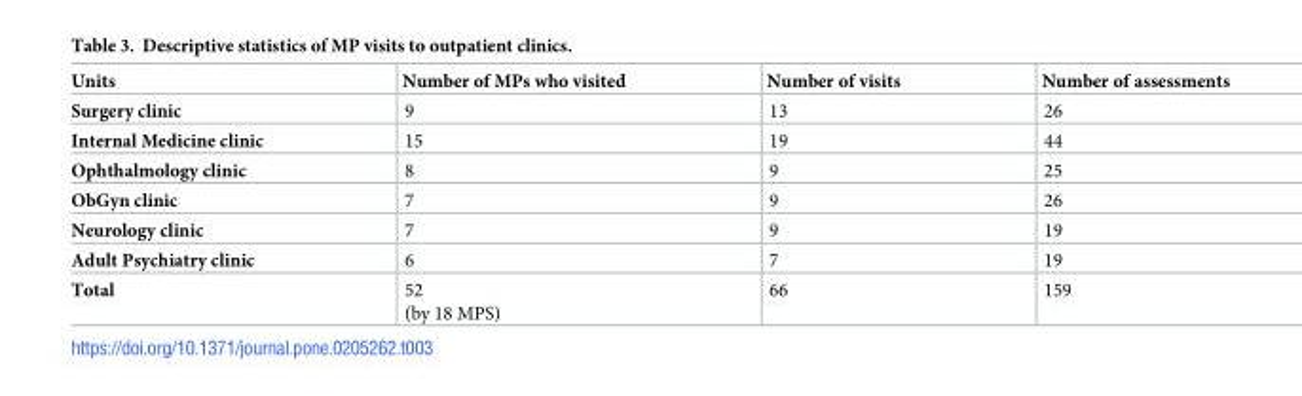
<table><thead><tr><td>Units</td><td>Number of MPs who visited</td><td>Number of visits</td><td>Number of assessments</td></tr></thead><tbody><tr><td>Surgery clinic</td><td>9</td><td>13</td><td>26</td></tr><tr><td>Internal Medicine clinic</td><td>15</td><td>19</td><td>44</td></tr><tr><td>Ophthalmology clinic</td><td>8</td><td>9</td><td>25</td></tr><tr><td>ObGyn clinic</td><td>7</td><td>9</td><td>26</td></tr><tr><td>Neurology clinic</td><td>7</td><td>9</td><td>19</td></tr><tr><td>Adult Psychiatry clinic</td><td>6</td><td>7</td><td>19</td></tr><tr><td>Total</td><td>52 (by 18 MPS)</td><td>66</td><td>159</td></tr></tbody></table>